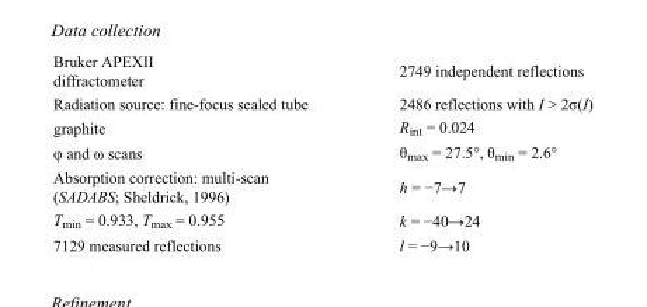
<table><tbody><tr><td>Bruker APEXII diffractometer</td><td>2749 independent reflections</td></tr><tr><td>Radiation source: fine-focus sealed tube</td><td>2486 reflections with I &gt; 2σ(I)</td></tr><tr><td>graphite</td><td>R<sub>int</sub> = 0.024</td></tr><tr><td>φ and ω scans</td><td>θ<sub>max</sub> = 27.5°, θ<sub>min</sub> = 2.6°</td></tr><tr><td>Absorption correction: multi-scan (SADABS; Sheldrick, 1996)</td><td>h = −7→7</td></tr><tr><td>T<sub>min</sub> = 0.933, T<sub>max</sub> = 0.955</td><td>k = −40→24</td></tr><tr><td>7129 measured reflections</td><td>l = −9→10</td></tr></tbody></table>